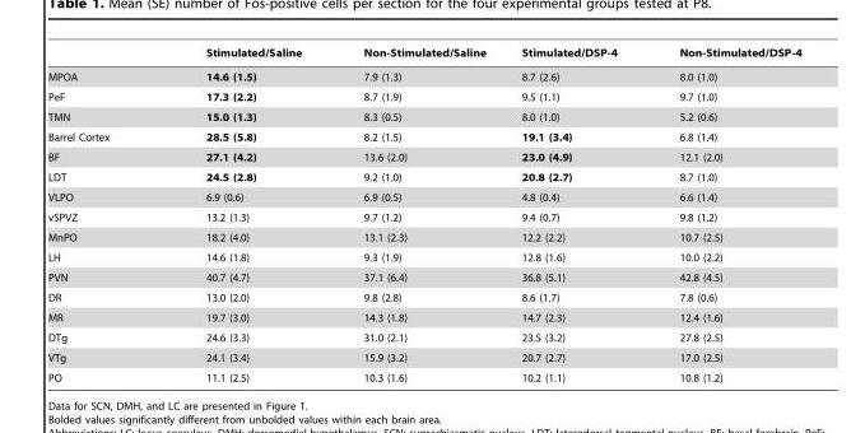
<table><thead><tr><td></td><td>Stimulated/Saline</td><td>Non-Stimulated/Saline</td><td>Stimulated/DSP-4</td><td>Non-Stimulated/DSP-4</td></tr></thead><tbody><tr><td>MPOA</td><td>14.6 (1.5)</td><td>7.9 (1.3)</td><td>8.7 (2.6)</td><td>8.0 (1.0)</td></tr><tr><td>PeF</td><td>17.3 (2.2)</td><td>8.7 (1.9)</td><td>9.5 (1.1)</td><td>9.7 (1.0)</td></tr><tr><td>TMN</td><td>15.0 (1.3)</td><td>8.3 (0.5)</td><td>8.0 (1.0)</td><td>5.2 (0.6)</td></tr><tr><td>Barrel Cortex</td><td>28.5 (5.8)</td><td>8.2 (1.5)</td><td>19.1 (3.4)</td><td>6.8 (1.4)</td></tr><tr><td>BF</td><td>27.1 (4.2)</td><td>13.6 (2.0)</td><td>23.0 (4.9)</td><td>12.1 (2.0)</td></tr><tr><td>LDT</td><td>24.5 (2.8)</td><td>9.2 (1.0)</td><td>20.8 (2.7)</td><td>8.7 (1.0)</td></tr><tr><td>VLPO</td><td>6.9 (0.6)</td><td>6.9 (0.5)</td><td>4.8 (0.4)</td><td>6.6 (1.4)</td></tr><tr><td>vSPVZ</td><td>13.2 (1.3)</td><td>9.7 (1.2)</td><td>9.4 (0.7)</td><td>9.8 (1.2)</td></tr><tr><td>MnPO</td><td>18.2 (4.0)</td><td>13.1 (2.3)</td><td>12.2 (2.2)</td><td>10.7 (2.5)</td></tr><tr><td>LH</td><td>14.6 (1.8)</td><td>9.3 (1.9)</td><td>12.8 (1.6)</td><td>10.0 (2.2)</td></tr><tr><td>PVN</td><td>40.7 (4.7)</td><td>37.1 (6.4)</td><td>36.8 (5.1)</td><td>42.8 (4.5)</td></tr><tr><td>DR</td><td>13.0 (2.0)</td><td>9.8 (2.8)</td><td>8.6 (1.7)</td><td>7.8 (0.6)</td></tr><tr><td>MR</td><td>19.7 (3.0)</td><td>14.3 (1.8)</td><td>14.7 (2.3)</td><td>12.4 (1.6)</td></tr><tr><td>DTg</td><td>24.6 (3.3)</td><td>31.0 (2.1)</td><td>23.5 (3.2)</td><td>27.8 (2.5)</td></tr><tr><td>VTg</td><td>24.1 (3.4)</td><td>15.9 (3.2)</td><td>20.7 (2.7)</td><td>17.0 (2.5)</td></tr><tr><td>PO</td><td>11.1 (2.5)</td><td>10.3 (1.6)</td><td>10.2 (1.1)</td><td>10.8 (1.2)</td></tr></tbody></table>